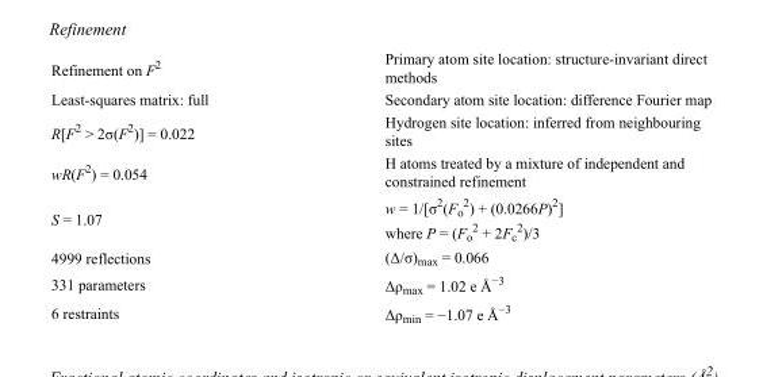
<table><tbody><tr><td>Refinement on F<sup>2</sup></td><td>Primary atom site location: structure-invariant direct methods</td></tr><tr><td>Least-squares matrix: full</td><td>Secondary atom site location: difference Fourier map</td></tr><tr><td>R[F<sup>2</sup> &gt; 2σ(F<sup>2</sup>)] = 0.022</td><td>Hydrogen site location: inferred from neighbouring sites</td></tr><tr><td>wR(F<sup>2</sup>) = 0.054</td><td>H atoms treated by a mixture of independent and constrained refinement</td></tr><tr><td>S = 1.07</td><td>w = 1/[σ<sup>2</sup>(F<sub>o</sub> <sup>2</sup>) + (0.0266P)<sup>2</sup>] where P = (F<sub>o</sub> <sup>2</sup> + 2F<sub>c</sub> <sup>2</sup>)/3</td></tr><tr><td>4999 reflections</td><td>(Δ/σ)<sub>max</sub> = 0.066</td></tr><tr><td>331 parameters</td><td>Δρ<sub>max</sub> = 1.02 e Å<sup>−3</sup></td></tr><tr><td>6 restraints</td><td>Δρ<sub>min</sub> = −1.07 e Å<sup>−3</sup></td></tr></tbody></table>